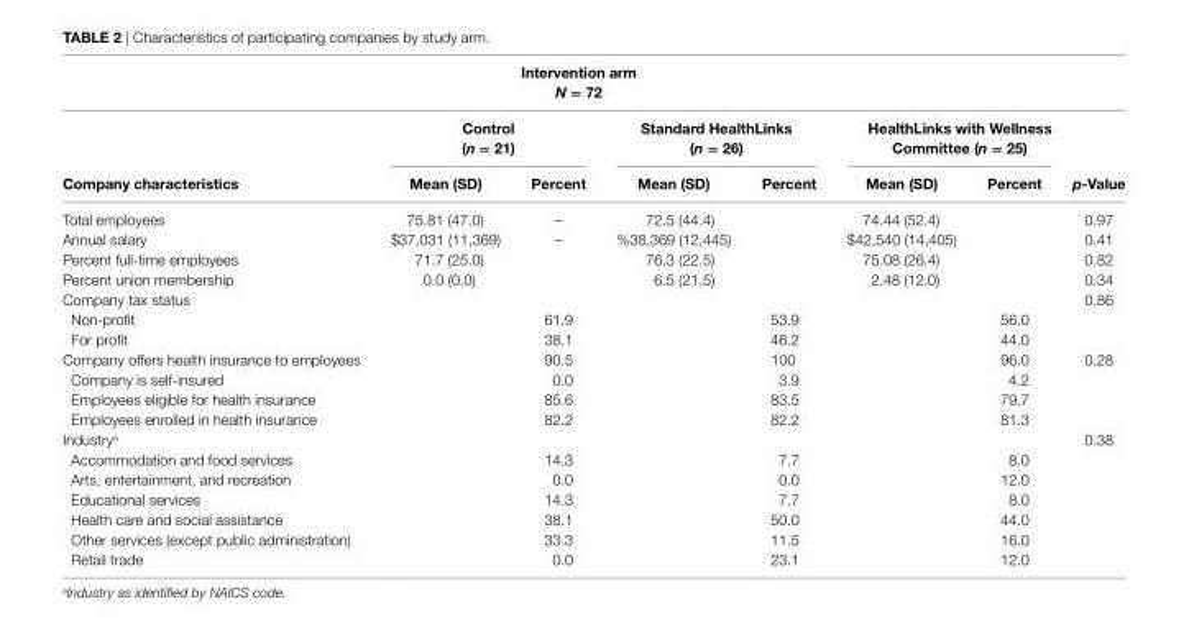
<table><thead><tr><td colspan="8">intervention arm N = 72</td></tr><tr><td rowspan="2">company characteristics</td><td colspan="2">control (n = 21)</td><td colspan="2">standard healthlinks (n = 26)</td><td colspan="2">healthlinks with Wellness committee (n = 25)</td><td rowspan="2">p-Value</td></tr><tr><td>Mean (sD)</td><td>Percent</td><td>Mean (sD)</td><td>Percent</td><td>Mean (sD)</td><td>Percent</td></tr></thead><tbody><tr><td>Total employees</td><td>75.81 (47.0)</td><td>–</td><td>72.5 (44.4)</td><td></td><td>74.44 (52.4)</td><td></td><td>0.97</td></tr><tr><td>Annual salary</td><td>$37,031 (11,369)</td><td>–</td><td>%38,369 (12,445)</td><td></td><td>$42,540 (14,405)</td><td></td><td>0.41</td></tr><tr><td>Percent full-time employees</td><td>71.7 (25.0)</td><td></td><td>76.3 (22.5)</td><td></td><td>75.08 (26.4)</td><td></td><td>0.82</td></tr><tr><td>Percent union membership</td><td>0.0 (0.0)</td><td></td><td>6.5 (21.5)</td><td></td><td>2.48 (12.0)</td><td></td><td>0.34</td></tr><tr><td>Company tax status</td><td></td><td></td><td></td><td></td><td></td><td></td><td>0.86</td></tr><tr><td>Non-profit</td><td></td><td>61.9</td><td></td><td>53.9</td><td></td><td>56.0</td><td></td></tr><tr><td>For profit</td><td></td><td>38.1</td><td></td><td>46.2</td><td></td><td>44.0</td><td></td></tr><tr><td>Company offers health insurance to employees</td><td></td><td>90.5</td><td></td><td>100</td><td></td><td>96.0</td><td>0.28</td></tr><tr><td>Company is self-insured</td><td></td><td>0.0</td><td></td><td>3.9</td><td></td><td>4.2</td><td></td></tr><tr><td>Employees eligible for health insurance</td><td></td><td>85.6</td><td></td><td>83.5</td><td></td><td>79.7</td><td></td></tr><tr><td>Employees enrolled in health insurance</td><td></td><td>82.2</td><td></td><td>82.2</td><td></td><td>81.3</td><td></td></tr><tr><td>Industry<sup>a</sup></td><td></td><td></td><td></td><td></td><td></td><td></td><td>0.38</td></tr><tr><td>Accommodation and food services</td><td></td><td>14.3</td><td></td><td>7.7</td><td></td><td>8.0</td><td></td></tr><tr><td>Arts, entertainment, and recreation</td><td></td><td>0.0</td><td></td><td>0.0</td><td></td><td>12.0</td><td></td></tr><tr><td>Educational services</td><td></td><td>14.3</td><td></td><td>7.7</td><td></td><td>8.0</td><td></td></tr><tr><td>Health care and social assistance</td><td></td><td>38.1</td><td></td><td>50.0</td><td></td><td>44.0</td><td></td></tr><tr><td>Other services (except public administration)</td><td></td><td>33.3</td><td></td><td>11.5</td><td></td><td>16.0</td><td></td></tr><tr><td>Retail trade</td><td></td><td>0.0</td><td></td><td>23.1</td><td></td><td>12.0</td><td></td></tr></tbody></table>